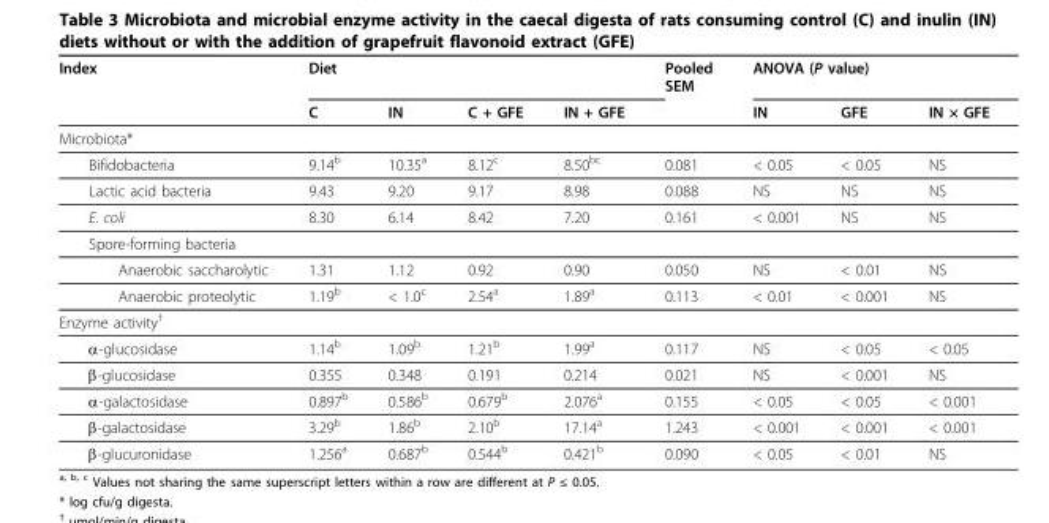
<table><thead><tr><td rowspan="2">Index</td><td colspan="4">Diet</td><td rowspan="2">Pooled SEM</td><td colspan="3">ANOVA (P value)</td></tr><tr><td>C</td><td>IN</td><td>C + GFE</td><td>IN + GFE</td><td>IN</td><td>GFE</td><td>IN × GFE</td></tr></thead><tbody><tr><td colspan="9">Microbiota*</td></tr><tr><td>Bifidobacteria</td><td>9.14b</td><td>10.35a</td><td>8.12c</td><td>8.50bc</td><td>0.081</td><td>&lt; 0.05</td><td>&lt; 0.05</td><td>NS</td></tr><tr><td>Lactic acid bacteria</td><td>9.43</td><td>9.20</td><td>9.17</td><td>8.98</td><td>0.088</td><td>NS</td><td>NS</td><td>NS</td></tr><tr><td>E. coli</td><td>8.30</td><td>6.14</td><td>8.42</td><td>7.20</td><td>0.161</td><td>&lt; 0.001</td><td>NS</td><td>NS</td></tr><tr><td colspan="9">Spore-forming bacteria</td></tr><tr><td>Anaerobic saccharolytic</td><td>1.31</td><td>1.12</td><td>0.92</td><td>0.90</td><td>0.050</td><td>NS</td><td>&lt; 0.01</td><td>NS</td></tr><tr><td>Anaerobic proteolytic</td><td>1.19b</td><td>&lt; 1.0c</td><td>2.54a</td><td>1.89a</td><td>0.113</td><td>&lt; 0.01</td><td>&lt; 0.001</td><td>NS</td></tr><tr><td colspan="9">Enzyme activity†</td></tr><tr><td>α-glucosidase</td><td>1.14b</td><td>1.09b</td><td>1.21b</td><td>1.99a</td><td>0.117</td><td>NS</td><td>&lt; 0.05</td><td>&lt; 0.05</td></tr><tr><td>β-glucosidase</td><td>0.355</td><td>0.348</td><td>0.191</td><td>0.214</td><td>0.021</td><td>NS</td><td>&lt; 0.001</td><td>NS</td></tr><tr><td>α-galactosidase</td><td>0.897b</td><td>0.586b</td><td>0.679b</td><td>2.076a</td><td>0.155</td><td>&lt; 0.05</td><td>&lt; 0.05</td><td>&lt; 0.001</td></tr><tr><td>β-galactosidase</td><td>3.29b</td><td>1.86b</td><td>2.10b</td><td>17.14a</td><td>1.243</td><td>&lt; 0.001</td><td>&lt; 0.001</td><td>&lt; 0.001</td></tr><tr><td>β-glucuronidase</td><td>1.256a</td><td>0.687b</td><td>0.544b</td><td>0.421b</td><td>0.090</td><td>&lt; 0.05</td><td>&lt; 0.01</td><td>NS</td></tr></tbody></table>